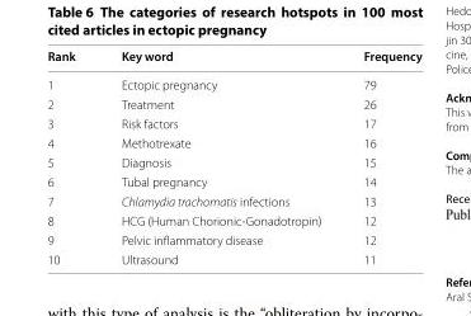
<table><thead><tr><td>Rank</td><td>Key word</td><td>Frequency</td></tr></thead><tbody><tr><td>1</td><td>Ectopic pregnancy</td><td>79</td></tr><tr><td>2</td><td>Treatment</td><td>26</td></tr><tr><td>3</td><td>Risk factors</td><td>17</td></tr><tr><td>4</td><td>Methotrexate</td><td>16</td></tr><tr><td>5</td><td>Diagnosis</td><td>15</td></tr><tr><td>6</td><td>Tubal pregnancy</td><td>14</td></tr><tr><td>7</td><td>Chlamydia trachomatis infections</td><td>13</td></tr><tr><td>8</td><td>HCG (Human Chorionic‑Gonadotropin)</td><td>12</td></tr><tr><td>9</td><td>Pelvic inflammatory disease</td><td>12</td></tr><tr><td>10</td><td>Ultrasound</td><td>11</td></tr></tbody></table>